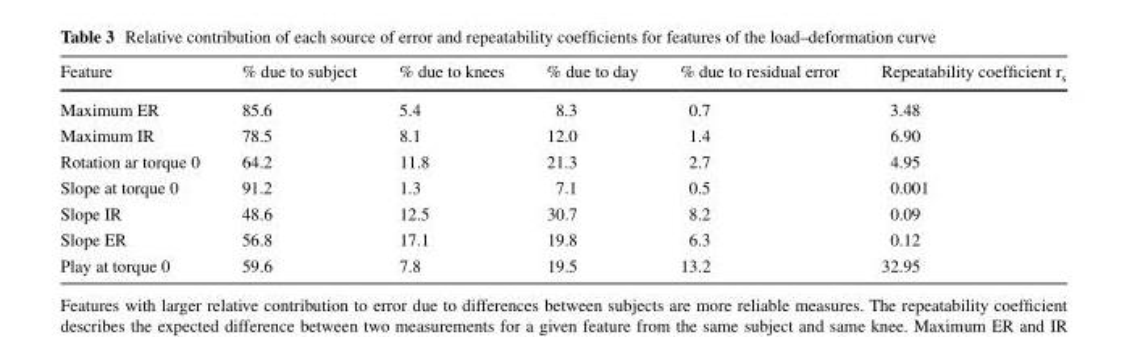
<table><thead><tr><td>Feature</td><td>% due to subject</td><td>% due to knees</td><td>% due to day</td><td>% due to residual error</td><td>Repeatability coefficient r<sub>s</sub></td></tr></thead><tbody><tr><td>Maximum ER</td><td>85.6</td><td>5.4</td><td>8.3</td><td>0.7</td><td>3.48</td></tr><tr><td>Maximum IR</td><td>78.5</td><td>8.1</td><td>12.0</td><td>1.4</td><td>6.90</td></tr><tr><td>Rotation ar torque 0</td><td>64.2</td><td>11.8</td><td>21.3</td><td>2.7</td><td>4.95</td></tr><tr><td>Slope at torque 0</td><td>91.2</td><td>1.3</td><td>7.1</td><td>0.5</td><td>0.001</td></tr><tr><td>Slope IR</td><td>48.6</td><td>12.5</td><td>30.7</td><td>8.2</td><td>0.09</td></tr><tr><td>Slope ER</td><td>56.8</td><td>17.1</td><td>19.8</td><td>6.3</td><td>0.12</td></tr><tr><td>Play at torque 0</td><td>59.6</td><td>7.8</td><td>19.5</td><td>13.2</td><td>32.95</td></tr></tbody></table>